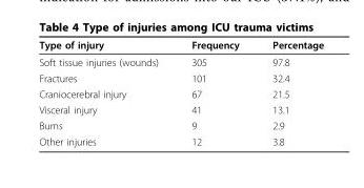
<table><thead><tr><td>Type of injury</td><td>Frequency</td><td>Percentage</td></tr></thead><tbody><tr><td>Soft tissue injuries (wounds)</td><td>305</td><td>97.8</td></tr><tr><td>Fractures</td><td>101</td><td>32.4</td></tr><tr><td>Craniocerebral injury</td><td>67</td><td>21.5</td></tr><tr><td>Visceral injury</td><td>41</td><td>13.1</td></tr><tr><td>Burns</td><td>9</td><td>2.9</td></tr><tr><td>Other injuries</td><td>12</td><td>3.8</td></tr></tbody></table>